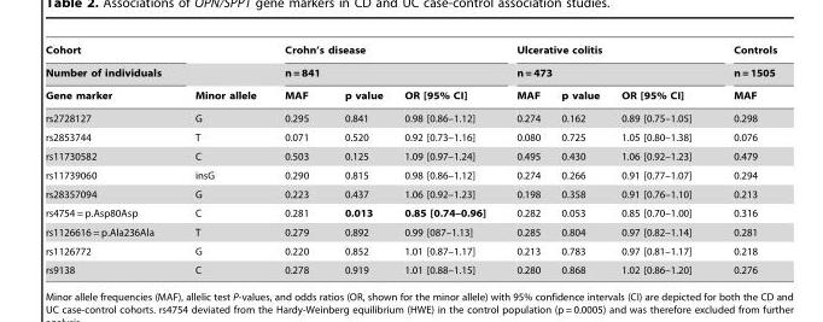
<table><thead><tr><td rowspan="3">Cohort Number of individuals Gene marker</td><td rowspan="3">Minor allele</td><td rowspan="2" colspan="3">Crohn’s disease n = 841</td><td rowspan="2" colspan="3">Ulcerative colitis n = 473</td><td rowspan="3">Controls n = 1505 MAF</td></tr><tr></tr><tr><td>MAF</td><td>p value</td><td>OR [95% CI]</td><td>MAF</td><td>p value</td><td>OR [95% CI]</td></tr></thead><tbody><tr><td>rs2728127</td><td>G</td><td>0.295</td><td>0.841</td><td>0.98 [0.86–1.12]</td><td>0.274</td><td>0.162</td><td>0.89 [0.75–1.05]</td><td>0.298</td></tr><tr><td>rs2853744</td><td>T</td><td>0.071</td><td>0.520</td><td>0.92 [0.73–1.16]</td><td>0.080</td><td>0.725</td><td>1.05 [0.80–1.38]</td><td>0.076</td></tr><tr><td>rs11730582</td><td>C</td><td>0.503</td><td>0.125</td><td>1.09 [0.97–1.24]</td><td>0.495</td><td>0.430</td><td>1.06 [0.92–1.23]</td><td>0.479</td></tr><tr><td>rs11739060</td><td>insG</td><td>0.290</td><td>0.815</td><td>0.98 [0.86–1.12]</td><td>0.274</td><td>0.266</td><td>0.91 [0.77–1.07]</td><td>0.294</td></tr><tr><td>rs28357094</td><td>G</td><td>0.223</td><td>0.437</td><td>1.06 [0.92–1.23]</td><td>0.198</td><td>0.358</td><td>0.91 [0.76–1.10]</td><td>0.213</td></tr><tr><td>rs4754 = p.Asp80Asp</td><td>C</td><td>0.281</td><td>0.013</td><td>0.85 [0.74–0.96]</td><td>0.282</td><td>0.053</td><td>0.85 [0.70–1.00]</td><td>0.316</td></tr><tr><td>rs1126616 = p.Ala236Ala</td><td>T</td><td>0.279</td><td>0.892</td><td>0.99 [087–1.13]</td><td>0.285</td><td>0.804</td><td>0.97 [0.82–1.14]</td><td>0.281</td></tr><tr><td>rs1126772</td><td>G</td><td>0.220</td><td>0.852</td><td>1.01 [0.87–1.17]</td><td>0.213</td><td>0.783</td><td>0.97 [0.81–1.17]</td><td>0.218</td></tr><tr><td>rs9138</td><td>C</td><td>0.278</td><td>0.919</td><td>1.01 [0.88–1.15]</td><td>0.280</td><td>0.868</td><td>1.02 [0.86–1.20]</td><td>0.276</td></tr></tbody></table>